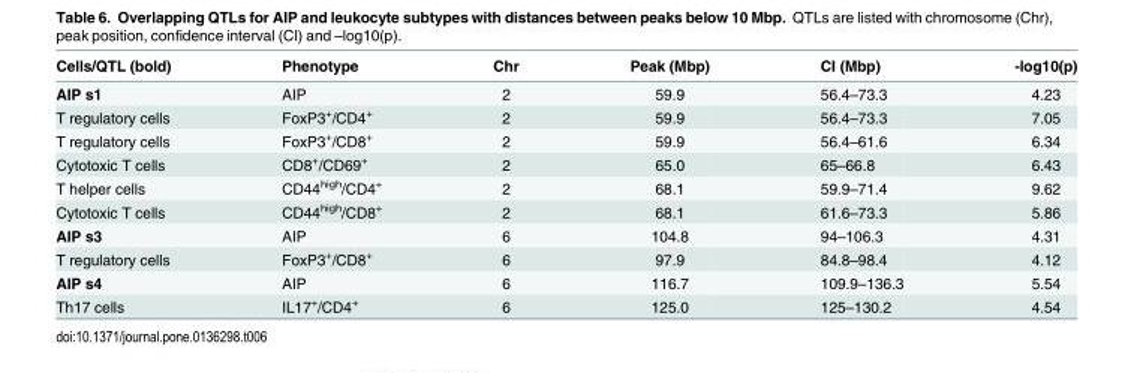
<table><thead><tr><td>Cells/QTL (bold)</td><td>Phenotype</td><td>Chr</td><td>Peak (Mbp)</td><td>CI (Mbp)</td><td>-log10(p)</td></tr></thead><tbody><tr><td>AIP s1</td><td>AIP</td><td>2</td><td>59.9</td><td>56.4–73.3</td><td>4.23</td></tr><tr><td>T regulatory cells</td><td>FoxP3<sup>+</sup>/CD4<sup>+</sup></td><td>2</td><td>59.9</td><td>56.4–73.3</td><td>7.05</td></tr><tr><td>T regulatory cells</td><td>FoxP3<sup>+</sup>/CD8<sup>+</sup></td><td>2</td><td>59.9</td><td>56.4–61.6</td><td>6.34</td></tr><tr><td>Cytotoxic T cells</td><td>CD8<sup>+</sup>/CD69<sup>+</sup></td><td>2</td><td>65.0</td><td>65–66.8</td><td>6.43</td></tr><tr><td>T helper cells</td><td>CD44<sup>high</sup>/CD4<sup>+</sup></td><td>2</td><td>68.1</td><td>59.9–71.4</td><td>9.62</td></tr><tr><td>Cytotoxic T cells</td><td>CD44<sup>high</sup>/CD8<sup>+</sup></td><td>2</td><td>68.1</td><td>61.6–73.3</td><td>5.86</td></tr><tr><td>AIP s3</td><td>AIP</td><td>6</td><td>104.8</td><td>94–106.3</td><td>4.31</td></tr><tr><td>T regulatory cells</td><td>FoxP3<sup>+</sup>/CD8<sup>+</sup></td><td>6</td><td>97.9</td><td>84.8–98.4</td><td>4.12</td></tr><tr><td>AIP s4</td><td>AIP</td><td>6</td><td>116.7</td><td>109.9–136.3</td><td>5.54</td></tr><tr><td>Th17 cells</td><td>IL17<sup>+</sup>/CD4<sup>+</sup></td><td>6</td><td>125.0</td><td>125–130.2</td><td>4.54</td></tr></tbody></table>